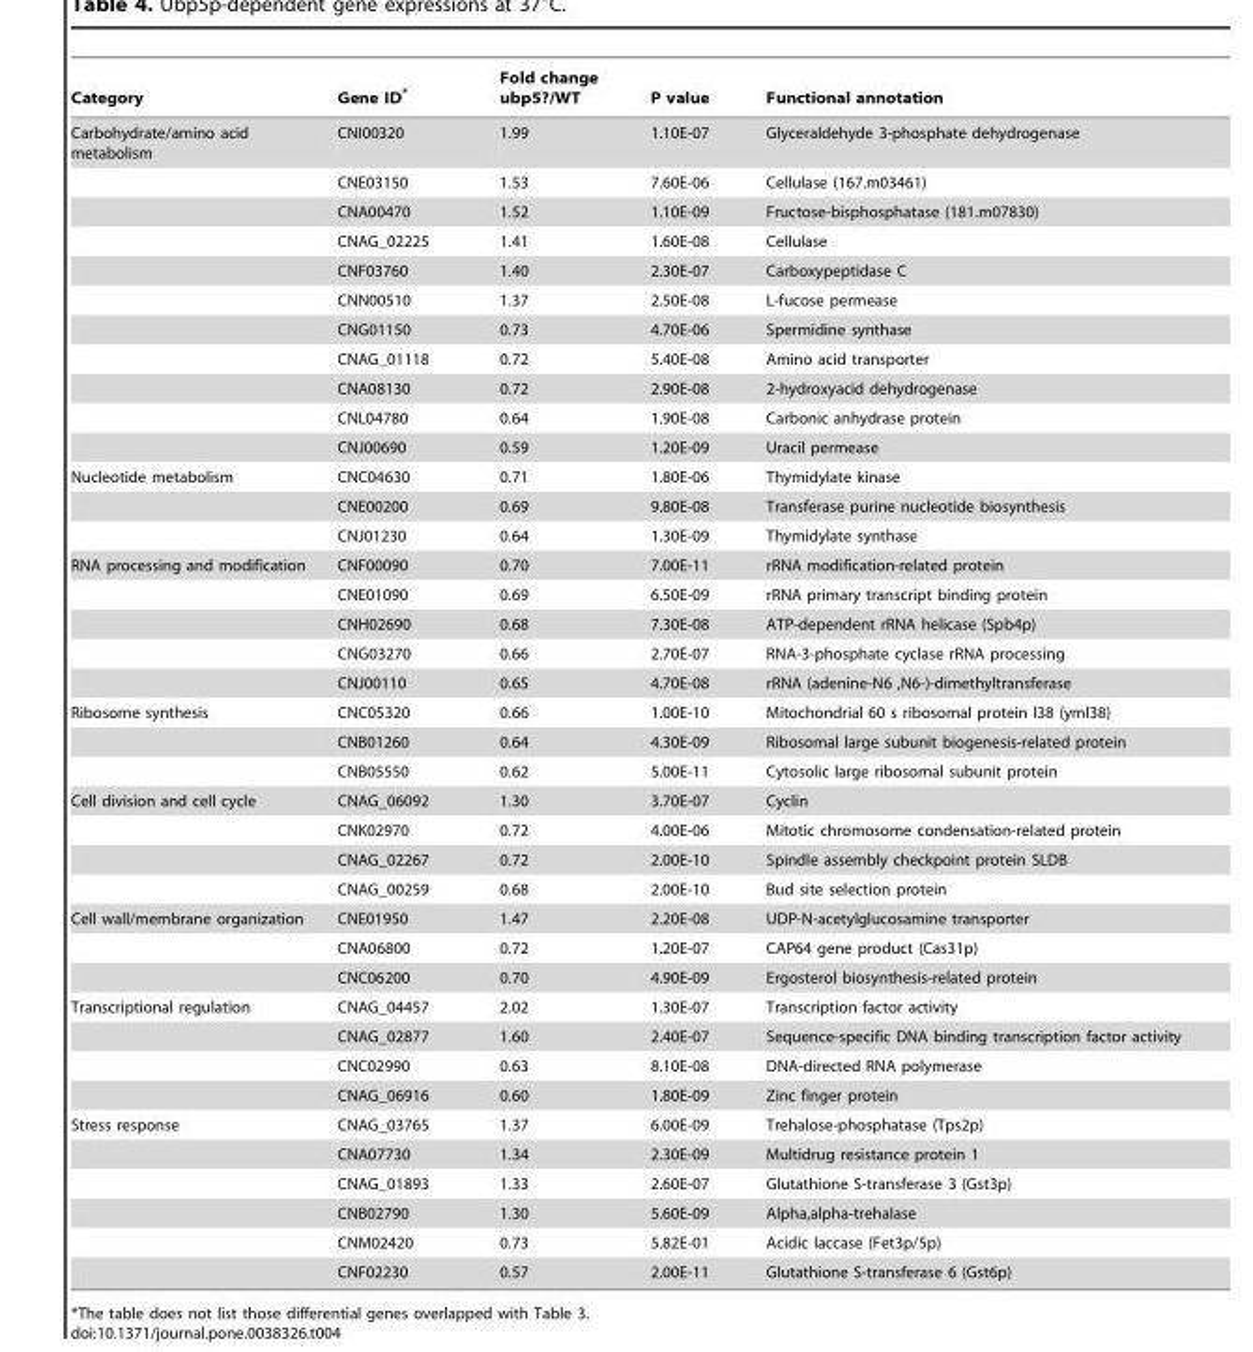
<table><thead><tr><td>Category</td><td>Gene ID*</td><td>Fold change ubp5?/WT</td><td>P value</td><td>Functional annotation</td></tr></thead><tbody><tr><td rowspan="11">Carbohydrate/amino acid metabolism</td><td>CNI00320</td><td>1.99</td><td>1.10E-07</td><td>Glyceraldehyde 3-phosphate dehydrogenase</td></tr><tr><td>CNE03150</td><td>1.53</td><td>7.60E-06</td><td>Cellulase (167.m03461)</td></tr><tr><td>CNA00470</td><td>1.52</td><td>1.10E-09</td><td>Fructose-bisphosphatase (181.m07830)</td></tr><tr><td>CNAG_02225</td><td>1.41</td><td>1.60E-08</td><td>Cellulase</td></tr><tr><td>CNF03760</td><td>1.40</td><td>2.30E-07</td><td>Carboxypeptidase C</td></tr><tr><td>CNN00510</td><td>1.37</td><td>2.50E-08</td><td>L-fucose permease</td></tr><tr><td>CNG01150</td><td>0.73</td><td>4.70E-06</td><td>Spermidine synthase</td></tr><tr><td>CNAG_01118</td><td>0.72</td><td>5.40E-08</td><td>Amino acid transporter</td></tr><tr><td>CNA08130</td><td>0.72</td><td>2.90E-08</td><td>2-hydroxyacid dehydrogenase</td></tr><tr><td>CNL04780</td><td>0.64</td><td>1.90E-08</td><td>Carbonic anhydrase protein</td></tr><tr><td>CNJ00690</td><td>0.59</td><td>1.20E-09</td><td>Uracil permease</td></tr><tr><td rowspan="3">Nucleotide metabolism</td><td>CNC04630</td><td>0.71</td><td>1.80E-06</td><td>Thymidylate kinase</td></tr><tr><td>CNE00200</td><td>0.69</td><td>9.80E-08</td><td>Transferase purine nucleotide biosynthesis</td></tr><tr><td>CNJ01230</td><td>0.64</td><td>1.30E-09</td><td>Thymidylate synthase</td></tr><tr><td rowspan="5">RNA processing and modification</td><td>CNF00090</td><td>0.70</td><td>7.00E-11</td><td>rRNA modification-related protein</td></tr><tr><td>CNE01090</td><td>0.69</td><td>6.50E-09</td><td>rRNA primary transcript binding protein</td></tr><tr><td>CNH02690</td><td>0.68</td><td>7.30E-08</td><td>ATP-dependent rRNA helicase (Spb4p)</td></tr><tr><td>CNG03270</td><td>0.66</td><td>2.70E-07</td><td>RNA-3-phosphate cyclase rRNA processing</td></tr><tr><td>CNJ00110</td><td>0.65</td><td>4.70E-08</td><td>rRNA (adenine-N6 ,N6-)-dimethyltransferase</td></tr><tr><td rowspan="3">Ribosome synthesis</td><td>CNC05320</td><td>0.66</td><td>1.00E-10</td><td>Mitochondrial 60 s ribosomal protein l38 (yml38)</td></tr><tr><td>CNB01260</td><td>0.64</td><td>4.30E-09</td><td>Ribosomal large subunit biogenesis-related protein</td></tr><tr><td>CNB05550</td><td>0.62</td><td>5.00E-11</td><td>Cytosolic large ribosomal subunit protein</td></tr><tr><td rowspan="4">Cell division and cell cycle</td><td>CNAG_06092</td><td>1.30</td><td>3.70E-07</td><td>Cyclin</td></tr><tr><td>CNK02970</td><td>0.72</td><td>4.00E-06</td><td>Mitotic chromosome condensation-related protein</td></tr><tr><td>CNAG_02267</td><td>0.72</td><td>2.00E-10</td><td>Spindle assembly checkpoint protein SLDB</td></tr><tr><td>CNAG_00259</td><td>0.68</td><td>2.00E-10</td><td>Bud site selection protein</td></tr><tr><td rowspan="3">Cell wall/membrane organization</td><td>CNE01950</td><td>1.47</td><td>2.20E-08</td><td>UDP-N-acetylglucosamine transporter</td></tr><tr><td>CNA06800</td><td>0.72</td><td>1.20E-07</td><td>CAP64 gene product (Cas31p)</td></tr><tr><td>CNC06200</td><td>0.70</td><td>4.90E-09</td><td>Ergosterol biosynthesis-related protein</td></tr><tr><td rowspan="4">Transcriptional regulation</td><td>CNAG_04457</td><td>2.02</td><td>1.30E-07</td><td>Transcription factor activity</td></tr><tr><td>CNAG_02877</td><td>1.60</td><td>2.40E-07</td><td>Sequence-specific DNA binding transcription factor activity</td></tr><tr><td>CNC02990</td><td>0.63</td><td>8.10E-08</td><td>DNA-directed RNA polymerase</td></tr><tr><td>CNAG_06916</td><td>0.60</td><td>1.80E-09</td><td>Zinc finger protein</td></tr><tr><td rowspan="6">Stress response</td><td>CNAG_03765</td><td>1.37</td><td>6.00E-09</td><td>Trehalose-phosphatase (Tps2p)</td></tr><tr><td>CNA07730</td><td>1.34</td><td>2.30E-09</td><td>Multidrug resistance protein 1</td></tr><tr><td>CNAG_01893</td><td>1.33</td><td>2.60E-07</td><td>Glutathione S-transferase 3 (Gst3p)</td></tr><tr><td>CNB02790</td><td>1.30</td><td>5.60E-09</td><td>Alpha,alpha-trehalase</td></tr><tr><td>CNM02420</td><td>0.73</td><td>5.82E-01</td><td>Acidic laccase (Fet3p/5p)</td></tr><tr><td>CNF02230</td><td>0.57</td><td>2.00E-11</td><td>Glutathione S-transferase 6 (Gst6p)</td></tr></tbody></table>